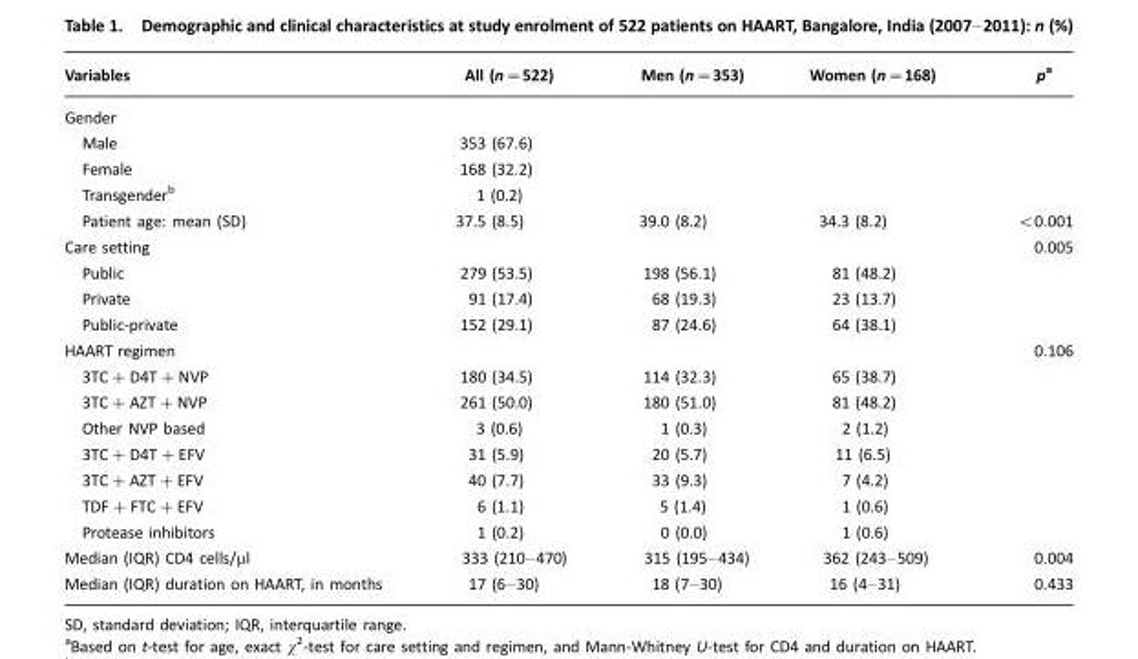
<table><thead><tr><td>Variables</td><td>All (n=522)</td><td>Men (n=353)</td><td>Women (n=168)</td><td>pa</td></tr></thead><tbody><tr><td colspan="5">Gender</td></tr><tr><td>Male</td><td>353 (67.6)</td><td></td><td></td><td></td></tr><tr><td>Female</td><td>168 (32.2)</td><td></td><td></td><td></td></tr><tr><td>Transgender<sup>b</sup></td><td>1 (0.2)</td><td></td><td></td><td></td></tr><tr><td>Patient age: mean (SD)</td><td>37.5 (8.5)</td><td>39.0 (8.2)</td><td>34.3 (8.2)</td><td>&lt;0.001</td></tr><tr><td>Care setting</td><td></td><td></td><td></td><td>0.005</td></tr><tr><td>Public</td><td>279 (53.5)</td><td>198 (56.1)</td><td>81 (48.2)</td><td></td></tr><tr><td>Private</td><td>91 (17.4)</td><td>68 (19.3)</td><td>23 (13.7)</td><td></td></tr><tr><td>Public-private</td><td>152 (29.1)</td><td>87 (24.6)</td><td>64 (38.1)</td><td></td></tr><tr><td>HAART regimen</td><td></td><td></td><td></td><td>0.106</td></tr><tr><td>3TC+D4T+NVP</td><td>180 (34.5)</td><td>114 (32.3)</td><td>65 (38.7)</td><td></td></tr><tr><td>3TC+AZT+NVP</td><td>261 (50.0)</td><td>180 (51.0)</td><td>81 (48.2)</td><td></td></tr><tr><td>Other NVP based</td><td>3 (0.6)</td><td>1 (0.3)</td><td>2 (1.2)</td><td></td></tr><tr><td>3TC+D4T+EFV</td><td>31 (5.9)</td><td>20 (5.7)</td><td>11 (6.5)</td><td></td></tr><tr><td>3TC+AZT+EFV</td><td>40 (7.7)</td><td>33 (9.3)</td><td>7 (4.2)</td><td></td></tr><tr><td>TDF+FTC+EFV</td><td>6 (1.1)</td><td>5 (1.4)</td><td>1 (0.6)</td><td></td></tr><tr><td>Protease inhibitors</td><td>1 (0.2)</td><td>0 (0.0)</td><td>1 (0.6)</td><td></td></tr><tr><td>Median (IQR) CD4 cells/µl</td><td>333 (210–470)</td><td>315 (195–434)</td><td>362 (243–509)</td><td>0.004</td></tr><tr><td>Median (IQR) duration on HAART, in months</td><td>17 (6–30)</td><td>18 (7–30)</td><td>16 (4–31)</td><td>0.433</td></tr></tbody></table>